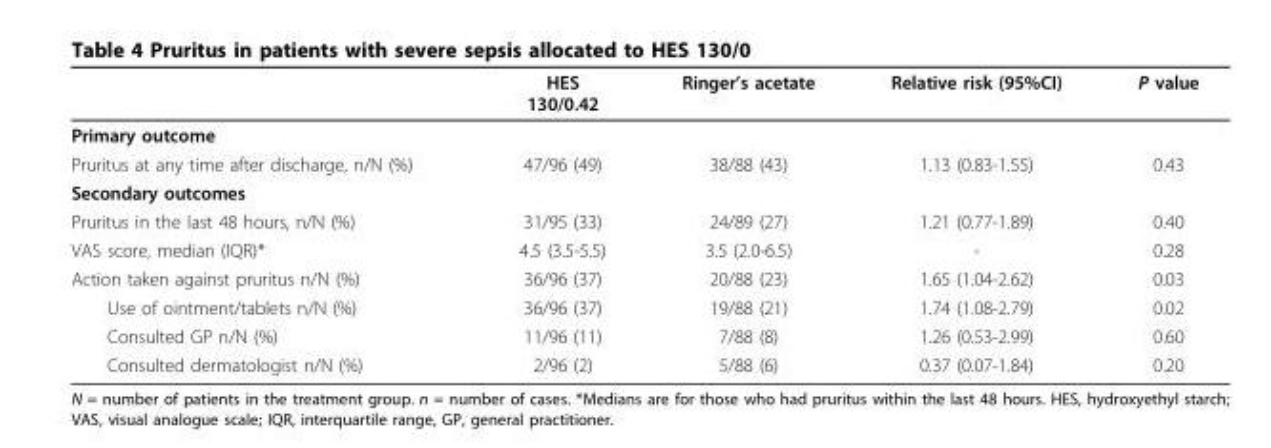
<table><thead><tr><td></td><td>HES 130/0.42</td><td>Ringer’s acetate</td><td>Relative risk (95%CI)</td><td>P value</td></tr></thead><tbody><tr><td colspan="5">Primary outcome</td></tr><tr><td>Pruritus at any time after discharge, n/N (%)</td><td>47/96 (49)</td><td>38/88 (43)</td><td>1.13 (0.83-1.55)</td><td>0.43</td></tr><tr><td colspan="5">Secondary outcomes</td></tr><tr><td>Pruritus in the last 48 hours, n/N (%)</td><td>31/95 (33)</td><td>24/89 (27)</td><td>1.21 (0.77-1.89)</td><td>0.40</td></tr><tr><td>VAS score, median (IQR)*</td><td>4.5 (3.5-5.5)</td><td>3.5 (2.0-6.5)</td><td>-</td><td>0.28</td></tr><tr><td>Action taken against pruritus n/N (%)</td><td>36/96 (37)</td><td>20/88 (23)</td><td>1.65 (1.04-2.62)</td><td>0.03</td></tr><tr><td>Use of ointment/tablets n/N (%)</td><td>36/96 (37)</td><td>19/88 (21)</td><td>1.74 (1.08-2.79)</td><td>0.02</td></tr><tr><td>Consulted GP n/N (%)</td><td>11/96 (11)</td><td>7/88 (8)</td><td>1.26 (0.53-2.99)</td><td>0.60</td></tr><tr><td>Consulted dermatologist n/N (%)</td><td>2/96 (2)</td><td>5/88 (6)</td><td>0.37 (0.07-1.84)</td><td>0.20</td></tr></tbody></table>